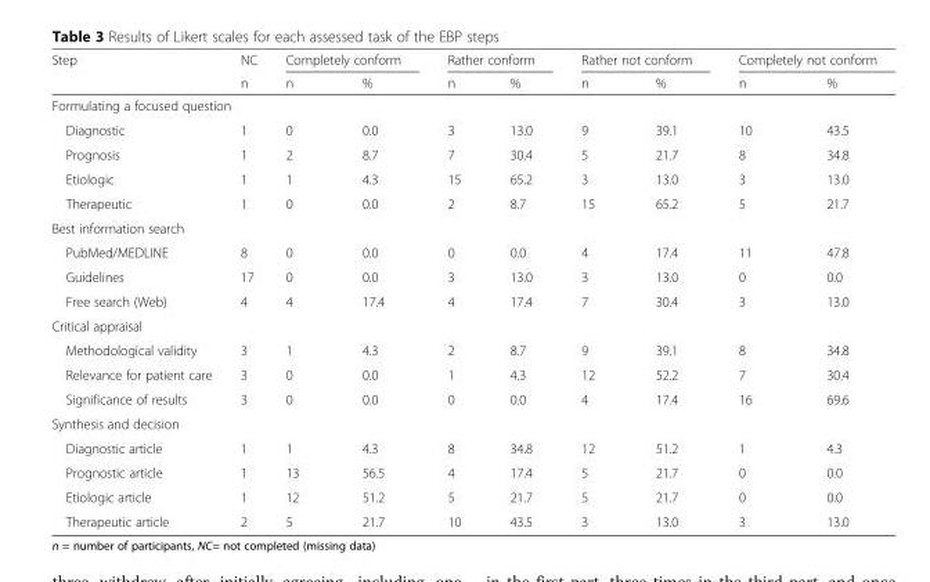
<table><thead><tr><td rowspan="2">Step</td><td rowspan="2">NC n</td><td colspan="2">Completely conform</td><td colspan="2">Rather conform</td><td colspan="2">Rather not conform</td><td colspan="2">Completely not conform</td></tr><tr><td>n</td><td>%</td><td>n</td><td>%</td><td>n</td><td>%</td><td>n</td><td>%</td></tr></thead><tbody><tr><td colspan="10">Formulating a focused question</td></tr><tr><td>Diagnostic</td><td>1</td><td>0</td><td>0.0</td><td>3</td><td>13.0</td><td>9</td><td>39.1</td><td>10</td><td>43.5</td></tr><tr><td>Prognosis</td><td>1</td><td>2</td><td>8.7</td><td>7</td><td>30.4</td><td>5</td><td>21.7</td><td>8</td><td>34.8</td></tr><tr><td>Etiologic</td><td>1</td><td>1</td><td>4.3</td><td>15</td><td>65.2</td><td>3</td><td>13.0</td><td>3</td><td>13.0</td></tr><tr><td>Therapeutic</td><td>1</td><td>0</td><td>0.0</td><td>2</td><td>8.7</td><td>15</td><td>65.2</td><td>5</td><td>21.7</td></tr><tr><td colspan="10">Best information search</td></tr><tr><td>PubMed/MEDLINE</td><td>8</td><td>0</td><td>0.0</td><td>0</td><td>0.0</td><td>4</td><td>17.4</td><td>11</td><td>47.8</td></tr><tr><td>Guidelines</td><td>17</td><td>0</td><td>0.0</td><td>3</td><td>13.0</td><td>3</td><td>13.0</td><td>0</td><td>0.0</td></tr><tr><td>Free search (Web)</td><td>4</td><td>4</td><td>17.4</td><td>4</td><td>17.4</td><td>7</td><td>30.4</td><td>3</td><td>13.0</td></tr><tr><td colspan="10">Critical appraisal</td></tr><tr><td>Methodological validity</td><td>3</td><td>1</td><td>4.3</td><td>2</td><td>8.7</td><td>9</td><td>39.1</td><td>8</td><td>34.8</td></tr><tr><td>Relevance for patient care</td><td>3</td><td>0</td><td>0.0</td><td>1</td><td>4.3</td><td>12</td><td>52.2</td><td>7</td><td>30.4</td></tr><tr><td>Significance of results</td><td>3</td><td>0</td><td>0.0</td><td>0</td><td>0.0</td><td>4</td><td>17.4</td><td>16</td><td>69.6</td></tr><tr><td colspan="10">Synthesis and decision</td></tr><tr><td>Diagnostic article</td><td>1</td><td>1</td><td>4.3</td><td>8</td><td>34.8</td><td>12</td><td>51.2</td><td>1</td><td>4.3</td></tr><tr><td>Prognostic article</td><td>1</td><td>13</td><td>56.5</td><td>4</td><td>17.4</td><td>5</td><td>21.7</td><td>0</td><td>0.0</td></tr><tr><td>Etiologic article</td><td>1</td><td>12</td><td>51.2</td><td>5</td><td>21.7</td><td>5</td><td>21.7</td><td>0</td><td>0.0</td></tr><tr><td>Therapeutic article</td><td>2</td><td>5</td><td>21.7</td><td>10</td><td>43.5</td><td>3</td><td>13.0</td><td>3</td><td>13.0</td></tr></tbody></table>